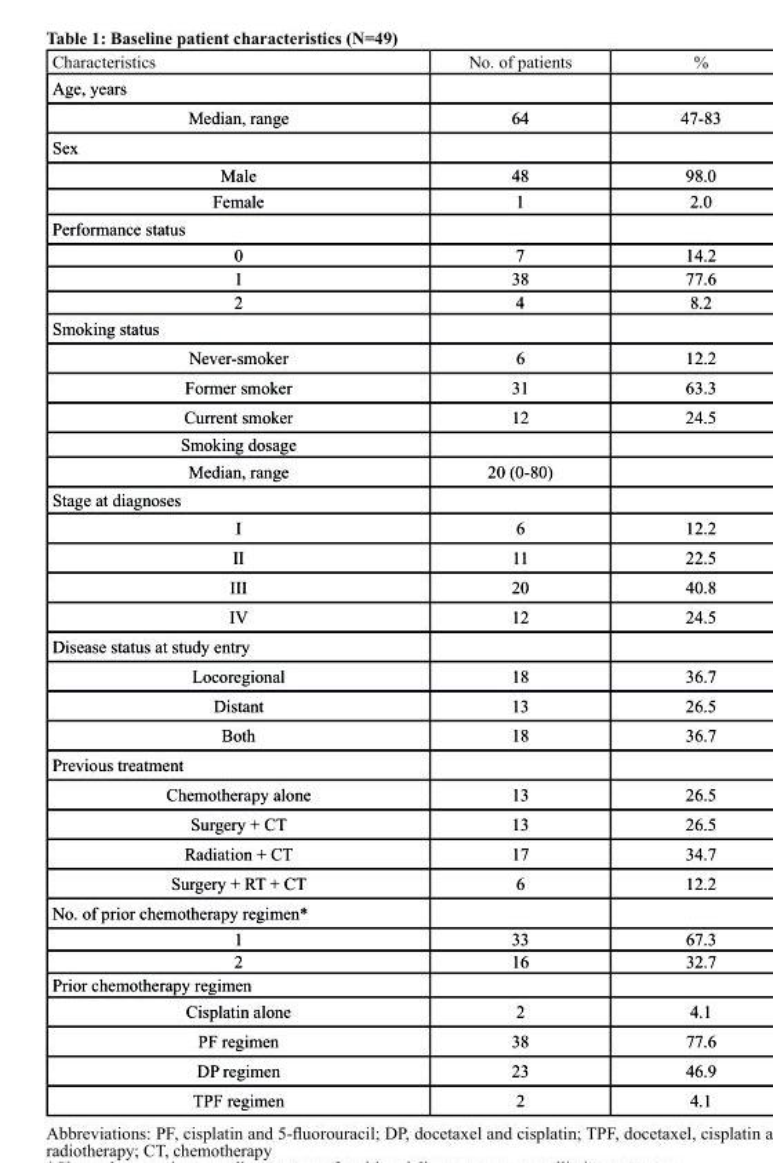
<table><thead><tr><td>Characteristics</td><td>No. of patients</td><td>%</td></tr></thead><tbody><tr><td colspan="3">Age, years</td></tr><tr><td>Median, range</td><td>64</td><td>47-83</td></tr><tr><td colspan="3">Sex</td></tr><tr><td>Male</td><td>48</td><td>98.0</td></tr><tr><td>Female</td><td>1</td><td>2.0</td></tr><tr><td colspan="3">Performance status</td></tr><tr><td>0</td><td>7</td><td>14.2</td></tr><tr><td>1</td><td>38</td><td>77.6</td></tr><tr><td>2</td><td>4</td><td>8.2</td></tr><tr><td colspan="3">Smoking status</td></tr><tr><td>Never-smoker</td><td>6</td><td>12.2</td></tr><tr><td>Former smoker</td><td>31</td><td>63.3</td></tr><tr><td>Current smoker</td><td>12</td><td>24.5</td></tr><tr><td colspan="3">Smoking dosage</td></tr><tr><td>Median, range</td><td>20 (0-80)</td><td></td></tr><tr><td colspan="3">Stage at diagnoses</td></tr><tr><td>I</td><td>6</td><td>12.2</td></tr><tr><td>II</td><td>11</td><td>22.5</td></tr><tr><td>III</td><td>20</td><td>40.8</td></tr><tr><td>IV</td><td>12</td><td>24.5</td></tr><tr><td colspan="3">Disease status at study entry</td></tr><tr><td>Locoregional</td><td>18</td><td>36.7</td></tr><tr><td>Distant</td><td>13</td><td>26.5</td></tr><tr><td>Both</td><td>18</td><td>36.7</td></tr><tr><td colspan="3">Previous treatment</td></tr><tr><td>Chemotherapy alone</td><td>13</td><td>26.5</td></tr><tr><td>Surgery + CT</td><td>13</td><td>26.5</td></tr><tr><td>Radiation + CT</td><td>17</td><td>34.7</td></tr><tr><td>Surgery + RT + CT</td><td>6</td><td>12.2</td></tr><tr><td colspan="3">No. of prior chemotherapy regimen*</td></tr><tr><td>1</td><td>33</td><td>67.3</td></tr><tr><td>2</td><td>16</td><td>32.7</td></tr><tr><td colspan="3">Prior chemotherapy regimen</td></tr><tr><td>Cisplatin alone</td><td>2</td><td>4.1</td></tr><tr><td>PF regimen</td><td>38</td><td>77.6</td></tr><tr><td>DP regimen</td><td>23</td><td>46.9</td></tr><tr><td>TPF regimen</td><td>2</td><td>4.1</td></tr></tbody></table>